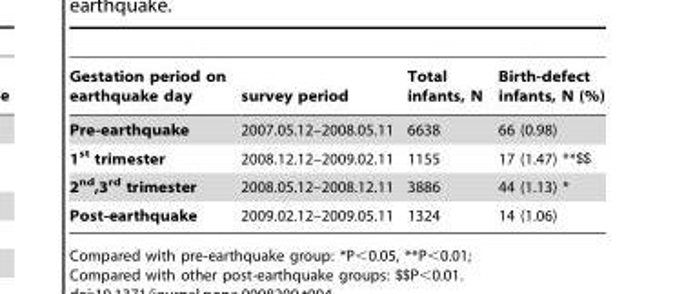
<table><thead><tr><td>Gestation period on earthquake day</td><td>survey period</td><td>Total infants, N</td><td>Birth-defect infants, N (%)</td></tr></thead><tbody><tr><td>Pre-earthquake</td><td>2007.05.12–2008.05.11</td><td>6638</td><td>66 (0.98)</td></tr><tr><td>1<sup>st</sup> trimester</td><td>2008.12.12–2009.02.11</td><td>1155</td><td>17 (1.47) **$$</td></tr><tr><td>2<sup>nd</sup>,3<sup>rd</sup> trimester</td><td>2008.05.12–2008.12.11</td><td>3886</td><td>44 (1.13) *</td></tr><tr><td>Post-earthquake</td><td>2009.02.12–2009.05.11</td><td>1324</td><td>14 (1.06)</td></tr></tbody></table>